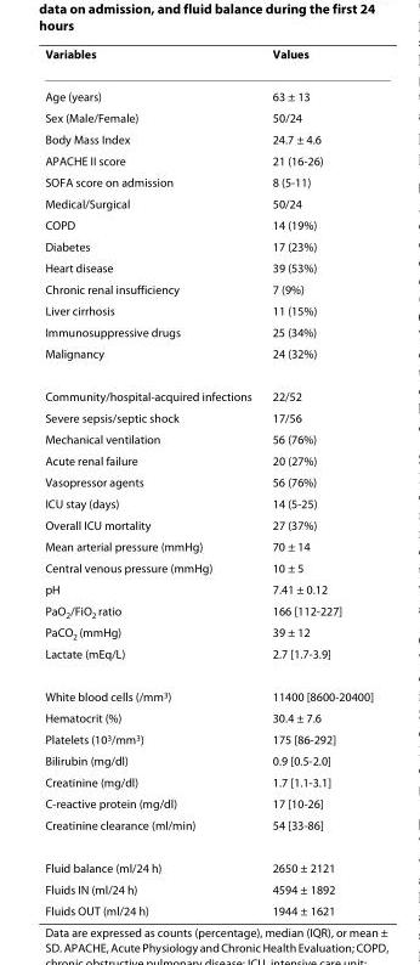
<table><thead><tr><td>Variables</td><td>Values</td></tr></thead><tbody><tr><td>Age (years)</td><td>63 ± 13</td></tr><tr><td>Sex (Male/Female)</td><td>50/24</td></tr><tr><td>Body Mass Index</td><td>24.7 ± 4.6</td></tr><tr><td>APACHE II score</td><td>21 (16-26)</td></tr><tr><td>SOFA score on admission</td><td>8 (5-11)</td></tr><tr><td>Medical/Surgical</td><td>50/24</td></tr><tr><td>COPD</td><td>14 (19%)</td></tr><tr><td>Diabetes</td><td>17 (23%)</td></tr><tr><td>Heart disease</td><td>39 (53%)</td></tr><tr><td>Chronic renal insufficiency</td><td>7 (9%)</td></tr><tr><td>Liver cirrhosis</td><td>11 (15%)</td></tr><tr><td>Immunosuppressive drugs</td><td>25 (34%)</td></tr><tr><td>Malignancy</td><td>24 (32%)</td></tr><tr><td>Community/hospital-acquired infections</td><td>22/52</td></tr><tr><td>Severe sepsis/septic shock</td><td>17/56</td></tr><tr><td>Mechanical ventilation</td><td>56 (76%)</td></tr><tr><td>Acute renal failure</td><td>20 (27%)</td></tr><tr><td>Vasopressor agents</td><td>56 (76%)</td></tr><tr><td>ICU stay (days)</td><td>14 (5-25)</td></tr><tr><td>Overall ICU mortality</td><td>27 (37%)</td></tr><tr><td>Mean arterial pressure (mmHg)</td><td>70 ± 14</td></tr><tr><td>Central venous pressure (mmHg)</td><td>10 ± 5</td></tr><tr><td>pH</td><td>7.41 ± 0.12</td></tr><tr><td>PaO<sub>2</sub>/FiO<sub>2</sub> ratio</td><td>166 [112-227]</td></tr><tr><td>PaCO<sub>2</sub> (mmHg)</td><td>39 ± 12</td></tr><tr><td>Lactate (mEq/L)</td><td>2.7 [1.7-3.9]</td></tr><tr><td>White blood cells (/mm<sup>3</sup>)</td><td>11400 [8600-20400]</td></tr><tr><td>Hematocrit (%)</td><td>30.4 ± 7.6</td></tr><tr><td>Platelets (10<sup>3</sup>/mm<sup>3</sup>)</td><td>175 [86-292]</td></tr><tr><td>Bilirubin (mg/dl)</td><td>0.9 [0.5-2.0]</td></tr><tr><td>Creatinine (mg/dl)</td><td>1.7 [1.1-3.1]</td></tr><tr><td>C-reactive protein (mg/dl)</td><td>17 [10-26]</td></tr><tr><td>Creatinine clearance (ml/min)</td><td>54 [33-86]</td></tr><tr><td>Fluid balance (ml/24 h)</td><td>2650 ± 2121</td></tr><tr><td>Fluids IN (ml/24 h)</td><td>4594 ± 1892</td></tr><tr><td>Fluids OUT (ml/24 h)</td><td>1944 ± 1621</td></tr></tbody></table>